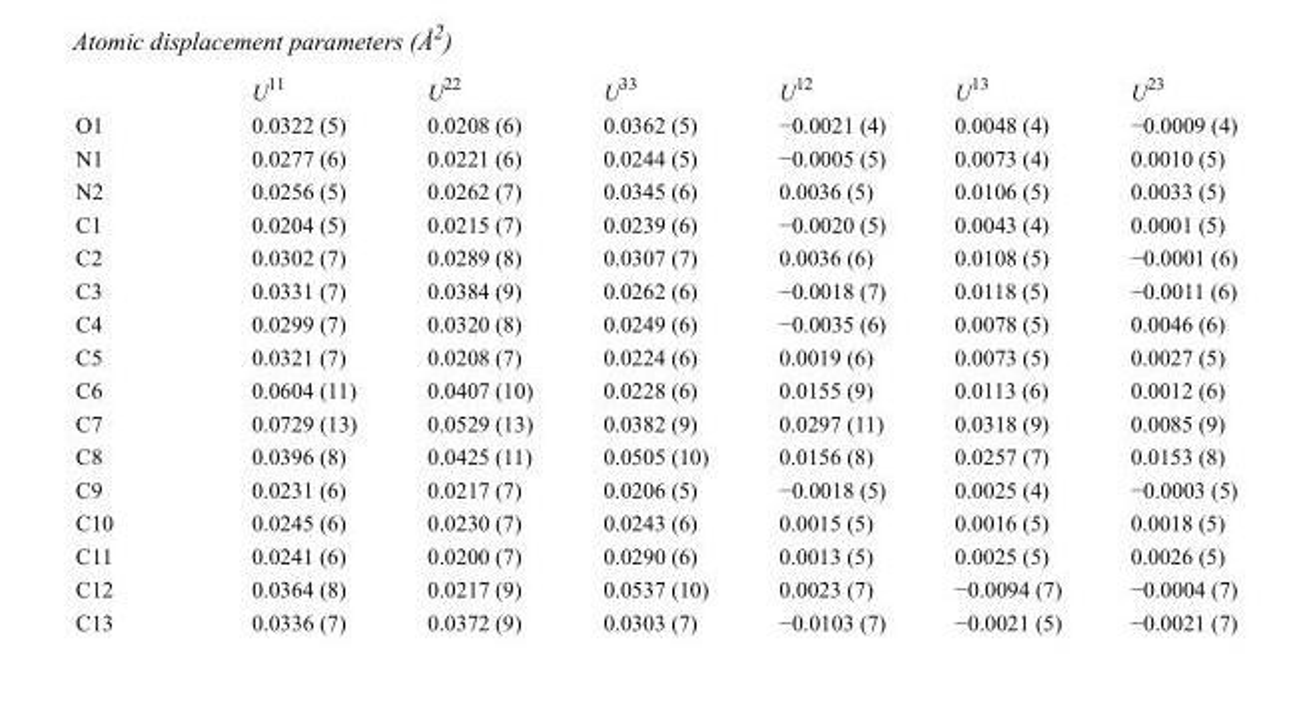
<table><thead><tr><td></td><td>U<sup>11</sup></td><td>U<sup>22</sup></td><td>U<sup>33</sup></td><td>U<sup>12</sup></td><td>U<sup>13</sup></td><td>U<sup>23</sup></td></tr></thead><tbody><tr><td>O1</td><td>0.0322 (5)</td><td>0.0208 (6)</td><td>0.0362 (5)</td><td>−0.0021 (4)</td><td>0.0048 (4)</td><td>−0.0009 (4)</td></tr><tr><td>N1</td><td>0.0277 (6)</td><td>0.0221 (6)</td><td>0.0244 (5)</td><td>−0.0005 (5)</td><td>0.0073 (4)</td><td>0.0010 (5)</td></tr><tr><td>N2</td><td>0.0256 (5)</td><td>0.0262 (7)</td><td>0.0345 (6)</td><td>0.0036 (5)</td><td>0.0106 (5)</td><td>0.0033 (5)</td></tr><tr><td>C1</td><td>0.0204 (5)</td><td>0.0215 (7)</td><td>0.0239 (6)</td><td>−0.0020 (5)</td><td>0.0043 (4)</td><td>0.0001 (5)</td></tr><tr><td>C2</td><td>0.0302 (7)</td><td>0.0289 (8)</td><td>0.0307 (7)</td><td>0.0036 (6)</td><td>0.0108 (5)</td><td>−0.0001 (6)</td></tr><tr><td>C3</td><td>0.0331 (7)</td><td>0.0384 (9)</td><td>0.0262 (6)</td><td>−0.0018 (7)</td><td>0.0118 (5)</td><td>−0.0011 (6)</td></tr><tr><td>C4</td><td>0.0299 (7)</td><td>0.0320 (8)</td><td>0.0249 (6)</td><td>−0.0035 (6)</td><td>0.0078 (5)</td><td>0.0046 (6)</td></tr><tr><td>C5</td><td>0.0321 (7)</td><td>0.0208 (7)</td><td>0.0224 (6)</td><td>0.0019 (6)</td><td>0.0073 (5)</td><td>0.0027 (5)</td></tr><tr><td>C6</td><td>0.0604 (11)</td><td>0.0407 (10)</td><td>0.0228 (6)</td><td>0.0155 (9)</td><td>0.0113 (6)</td><td>0.0012 (6)</td></tr><tr><td>C7</td><td>0.0729 (13)</td><td>0.0529 (13)</td><td>0.0382 (9)</td><td>0.0297 (11)</td><td>0.0318 (9)</td><td>0.0085 (9)</td></tr><tr><td>C8</td><td>0.0396 (8)</td><td>0.0425 (11)</td><td>0.0505 (10)</td><td>0.0156 (8)</td><td>0.0257 (7)</td><td>0.0153 (8)</td></tr><tr><td>C9</td><td>0.0231 (6)</td><td>0.0217 (7)</td><td>0.0206 (5)</td><td>−0.0018 (5)</td><td>0.0025 (4)</td><td>−0.0003 (5)</td></tr><tr><td>C10</td><td>0.0245 (6)</td><td>0.0230 (7)</td><td>0.0243 (6)</td><td>0.0015 (5)</td><td>0.0016 (5)</td><td>0.0018 (5)</td></tr><tr><td>C11</td><td>0.0241 (6)</td><td>0.0200 (7)</td><td>0.0290 (6)</td><td>0.0013 (5)</td><td>0.0025 (5)</td><td>0.0026 (5)</td></tr><tr><td>C12</td><td>0.0364 (8)</td><td>0.0217 (9)</td><td>0.0537 (10)</td><td>0.0023 (7)</td><td>−0.0094 (7)</td><td>−0.0004 (7)</td></tr><tr><td>C13</td><td>0.0336 (7)</td><td>0.0372 (9)</td><td>0.0303 (7)</td><td>−0.0103 (7)</td><td>−0.0021 (5)</td><td>−0.0021 (7)</td></tr></tbody></table>